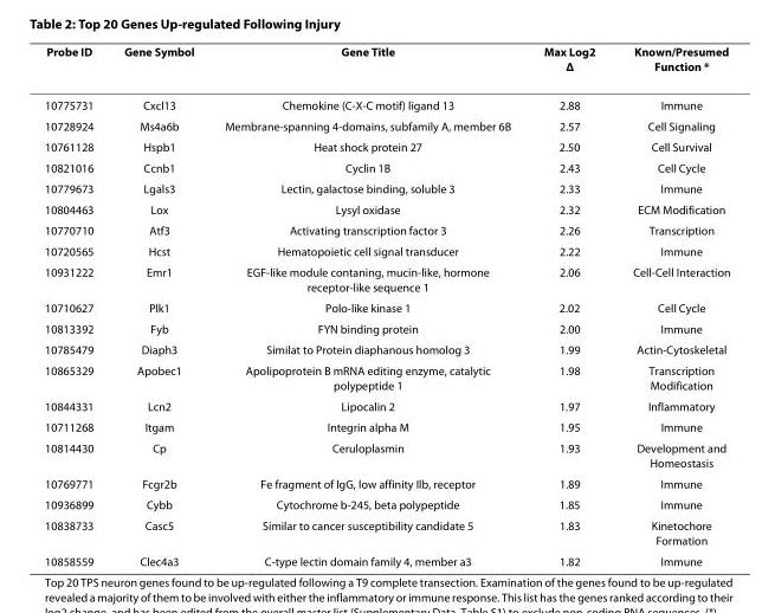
<table><thead><tr><td>Probe ID</td><td>Gene Symbol</td><td>Gene Title</td><td>Max Log2 Δ</td><td>Known/Presumed Function *</td></tr></thead><tbody><tr><td>10775731</td><td>Cxcl13</td><td>Chemokine (C-X-C motif) ligand 13</td><td>2.88</td><td>Immune</td></tr><tr><td>10728924</td><td>Ms4a6b</td><td>Membrane-spanning 4-domains, subfamily A, member 6B</td><td>2.57</td><td>Cell Signaling</td></tr><tr><td>10761128</td><td>Hspb1</td><td>Heat shock protein 27</td><td>2.50</td><td>Cell Survival</td></tr><tr><td>10821016</td><td>Ccnb1</td><td>Cyclin 1B</td><td>2.43</td><td>Cell Cycle</td></tr><tr><td>10779673</td><td>Lgals3</td><td>Lectin, galactose binding, soluble 3</td><td>2.33</td><td>Immune</td></tr><tr><td>10804463</td><td>Lox</td><td>Lysyl oxidase</td><td>2.32</td><td>ECM Modification</td></tr><tr><td>10770710</td><td>Atf3</td><td>Activating transcription factor 3</td><td>2.26</td><td>Transcription</td></tr><tr><td>10720565</td><td>Hcst</td><td>Hematopoietic cell signal transducer</td><td>2.22</td><td>Immune</td></tr><tr><td>10931222</td><td>Emr1</td><td>EGF-like module contaning, mucin-like, hormone receptor-like sequence 1</td><td>2.06</td><td>Cell-Cell Interaction</td></tr><tr><td>10710627</td><td>Plk1</td><td>Polo-like kinase 1</td><td>2.02</td><td>Cell Cycle</td></tr><tr><td>10813392</td><td>Fyb</td><td>FYN binding protein</td><td>2.00</td><td>Immune</td></tr><tr><td>10785479</td><td>Diaph3</td><td>Similat to Protein diaphanous homolog 3</td><td>1.99</td><td>Actin-Cytoskeletal</td></tr><tr><td>10865329</td><td>Apobec1</td><td>Apolipoprotein B mRNA editing enzyme, catalytic polypeptide 1</td><td>1.98</td><td>Transcription Modification</td></tr><tr><td>10844331</td><td>Lcn2</td><td>Lipocalin 2</td><td>1.97</td><td>Inflammatory</td></tr><tr><td>10711268</td><td>Itgam</td><td>Integrin alpha M</td><td>1.95</td><td>Immune</td></tr><tr><td>10814430</td><td>Cp</td><td>Ceruloplasmin</td><td>1.93</td><td>Development and Homeostasis</td></tr><tr><td>10769771</td><td>Fcgr2b</td><td>Fe fragment of IgG, low affinity Ilb, receptor</td><td>1.89</td><td>Immune</td></tr><tr><td>10936899</td><td>Cybb</td><td>Cytochrome b-245, beta polypeptide</td><td>1.85</td><td>Immune</td></tr><tr><td>10838733</td><td>Casc5</td><td>Similar to cancer susceptibility candidate 5</td><td>1.83</td><td>Kinetochore Formation</td></tr><tr><td>10858559</td><td>Clec4a3</td><td>C-type lectin domain family 4, member a3</td><td>1.82</td><td>Immune</td></tr></tbody></table>